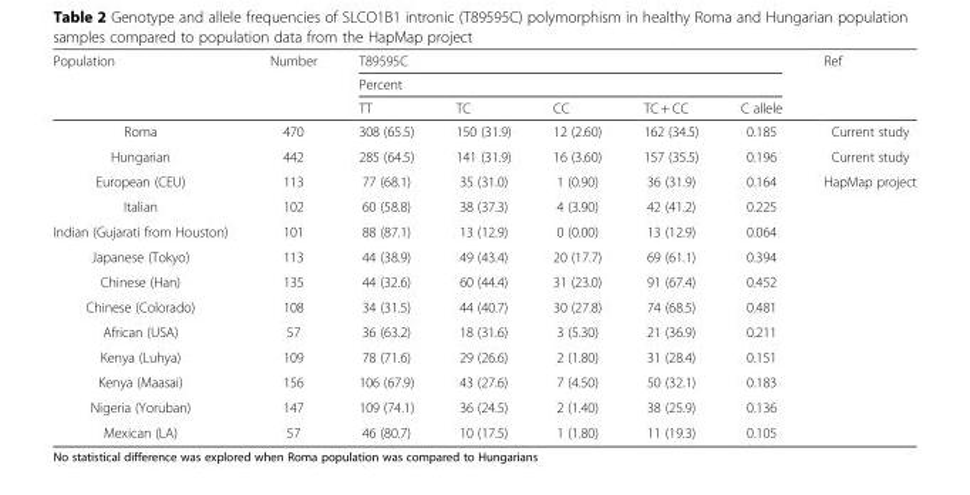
<table><thead><tr><td rowspan="3">Population</td><td rowspan="3">Number</td><td rowspan="2" colspan="5">T89595C Percent</td><td rowspan="3">Ref</td></tr><tr></tr><tr><td>TT</td><td>TC</td><td>CC</td><td>TC + CC</td><td>C allele</td></tr></thead><tbody><tr><td>Roma</td><td>470</td><td>308 (65.5)</td><td>150 (31.9)</td><td>12 (2.60)</td><td>162 (34.5)</td><td>0.185</td><td>Current study</td></tr><tr><td>Hungarian</td><td>442</td><td>285 (64.5)</td><td>141 (31.9)</td><td>16 (3.60)</td><td>157 (35.5)</td><td>0.196</td><td>Current study</td></tr><tr><td>European (CEU)</td><td>113</td><td>77 (68.1)</td><td>35 (31.0)</td><td>1 (0.90)</td><td>36 (31.9)</td><td>0.164</td><td rowspan="11">HapMap project</td></tr><tr><td>Italian</td><td>102</td><td>60 (58.8)</td><td>38 (37.3)</td><td>4 (3.90)</td><td>42 (41.2)</td><td>0.225</td></tr><tr><td>Indian (Gujarati from Houston)</td><td>101</td><td>88 (87.1)</td><td>13 (12.9)</td><td>0 (0.00)</td><td>13 (12.9)</td><td>0.064</td></tr><tr><td>Japanese (Tokyo)</td><td>113</td><td>44 (38.9)</td><td>49 (43.4)</td><td>20 (17.7)</td><td>69 (61.1)</td><td>0.394</td></tr><tr><td>Chinese (Han)</td><td>135</td><td>44 (32.6)</td><td>60 (44.4)</td><td>31 (23.0)</td><td>91 (67.4)</td><td>0.452</td></tr><tr><td>Chinese (Colorado)</td><td>108</td><td>34 (31.5)</td><td>44 (40.7)</td><td>30 (27.8)</td><td>74 (68.5)</td><td>0.481</td></tr><tr><td>African (USA)</td><td>57</td><td>36 (63.2)</td><td>18 (31.6)</td><td>3 (5.30)</td><td>21 (36.9)</td><td>0.211</td></tr><tr><td>Kenya (Luhya)</td><td>109</td><td>78 (71.6)</td><td>29 (26.6)</td><td>2 (1.80)</td><td>31 (28.4)</td><td>0.151</td></tr><tr><td>Kenya (Maasai)</td><td>156</td><td>106 (67.9)</td><td>43 (27.6)</td><td>7 (4.50)</td><td>50 (32.1)</td><td>0.183</td></tr><tr><td>Nigeria (Yoruban)</td><td>147</td><td>109 (74.1)</td><td>36 (24.5)</td><td>2 (1.40)</td><td>38 (25.9)</td><td>0.136</td></tr><tr><td>Mexican (LA)</td><td>57</td><td>46 (80.7)</td><td>10 (17.5)</td><td>1 (1.80)</td><td>11 (19.3)</td><td>0.105</td></tr></tbody></table>